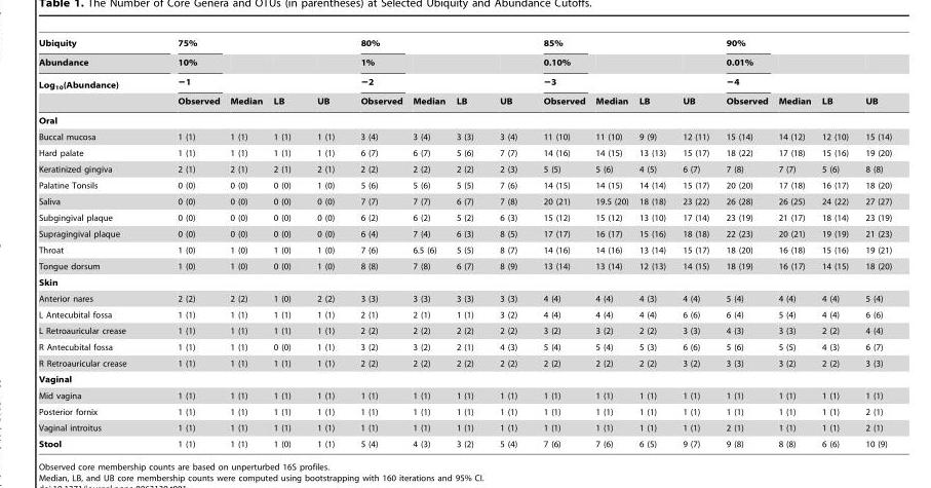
<table><thead><tr><td rowspan="4">Ubiquity Abundance Log<sub>10</sub>(Abundance)</td><td rowspan="4">75% 10% −1 Observed</td><td rowspan="4">Median</td><td rowspan="4">LB</td><td rowspan="4">UB</td><td rowspan="4">80% 1% −2 Observed</td><td rowspan="4">Median</td><td rowspan="4">LB</td><td rowspan="4">UB</td><td rowspan="4">85% 0.10% −3 Observed</td><td rowspan="4">Median</td><td rowspan="4">LB</td><td rowspan="4">UB</td><td rowspan="4">90% 0.01% −4 Observed</td><td rowspan="4">Median</td><td rowspan="4">LB</td><td rowspan="4">UB</td></tr><tr></tr><tr></tr><tr></tr></thead><tbody><tr><td colspan="17">Oral</td></tr><tr><td>Buccal mucosa</td><td>1 (1)</td><td>1 (1)</td><td>1 (1)</td><td>1 (1)</td><td>3 (4)</td><td>3 (4)</td><td>3 (3)</td><td>3 (4)</td><td>11 (10)</td><td>11 (10)</td><td>9 (9)</td><td>12 (11)</td><td>15 (14)</td><td>14 (12)</td><td>12 (10)</td><td>15 (14)</td></tr><tr><td>Hard palate</td><td>1 (1)</td><td>1 (1)</td><td>1 (1)</td><td>1 (1)</td><td>6 (7)</td><td>6 (7)</td><td>5 (6)</td><td>7 (7)</td><td>14 (16)</td><td>14 (15)</td><td>13 (13)</td><td>15 (17)</td><td>18 (22)</td><td>17 (18)</td><td>15 (16)</td><td>19 (20)</td></tr><tr><td>Keratinized gingiva</td><td>2 (1)</td><td>2 (1)</td><td>2 (1)</td><td>2 (1)</td><td>2 (2)</td><td>2 (2)</td><td>2 (2)</td><td>2 (3)</td><td>5 (5)</td><td>5 (6)</td><td>4 (5)</td><td>6 (7)</td><td>7 (8)</td><td>7 (7)</td><td>5 (6)</td><td>8 (8)</td></tr><tr><td>Palatine Tonsils</td><td>0 (0)</td><td>0 (0)</td><td>0 (0)</td><td>1 (0)</td><td>5 (6)</td><td>5 (6)</td><td>5 (5)</td><td>7 (6)</td><td>14 (15)</td><td>14 (15)</td><td>14 (14)</td><td>15 (17)</td><td>20 (20)</td><td>17 (18)</td><td>16 (17)</td><td>18 (20)</td></tr><tr><td>Saliva</td><td>0 (0)</td><td>0 (0)</td><td>0 (0)</td><td>0 (0)</td><td>7 (7)</td><td>7 (7)</td><td>6 (7)</td><td>7 (8)</td><td>20 (21)</td><td>19.5 (20)</td><td>18 (18)</td><td>23 (22)</td><td>26 (28)</td><td>26 (25)</td><td>24 (22)</td><td>27 (27)</td></tr><tr><td>Subgingival plaque</td><td>0 (0)</td><td>0 (0)</td><td>0 (0)</td><td>0 (0)</td><td>6 (2)</td><td>6 (2)</td><td>5 (2)</td><td>6 (3)</td><td>15 (12)</td><td>15 (12)</td><td>13 (10)</td><td>17 (14)</td><td>23 (19)</td><td>21 (17)</td><td>18 (14)</td><td>23 (19)</td></tr><tr><td>Supragingival plaque</td><td>0 (0)</td><td>0 (0)</td><td>0 (0)</td><td>0 (0)</td><td>6 (4)</td><td>7 (4)</td><td>6 (3)</td><td>8 (5)</td><td>17 (17)</td><td>16 (17)</td><td>15 (16)</td><td>18 (18)</td><td>22 (23)</td><td>20 (21)</td><td>19 (19)</td><td>21 (23)</td></tr><tr><td>Throat</td><td>1 (0)</td><td>1 (0)</td><td>1 (0)</td><td>1 (0)</td><td>7 (6)</td><td>6.5 (6)</td><td>5 (5)</td><td>8 (7)</td><td>14 (16)</td><td>14 (16)</td><td>13 (14)</td><td>15 (17)</td><td>18 (20)</td><td>16 (18)</td><td>15 (16)</td><td>19 (21)</td></tr><tr><td>Tongue dorsum</td><td>1 (0)</td><td>1 (0)</td><td>0 (0)</td><td>1 (0)</td><td>8 (8)</td><td>7 (8)</td><td>6 (7)</td><td>8 (9)</td><td>13 (14)</td><td>13 (14)</td><td>12 (13)</td><td>14 (15)</td><td>18 (19)</td><td>16 (17)</td><td>14 (15)</td><td>18 (20)</td></tr><tr><td colspan="17">Skin</td></tr><tr><td>Anterior nares</td><td>2 (2)</td><td>2 (2)</td><td>1 (0)</td><td>2 (2)</td><td>3 (3)</td><td>3 (3)</td><td>3 (3)</td><td>3 (3)</td><td>4 (4)</td><td>4 (4)</td><td>4 (3)</td><td>4 (4)</td><td>5 (4)</td><td>4 (4)</td><td>4 (4)</td><td>5 (4)</td></tr><tr><td>L Antecubital fossa</td><td>1 (1)</td><td>1 (1)</td><td>1 (1)</td><td>1 (1)</td><td>2 (1)</td><td>2 (1)</td><td>1 (1)</td><td>3 (2)</td><td>4 (4)</td><td>4 (4)</td><td>4 (4)</td><td>6 (6)</td><td>6 (4)</td><td>5 (4)</td><td>4 (4)</td><td>6 (6)</td></tr><tr><td>L Retroauricular crease</td><td>1 (1)</td><td>1 (1)</td><td>1 (1)</td><td>1 (1)</td><td>2 (2)</td><td>2 (2)</td><td>2 (2)</td><td>2 (2)</td><td>3 (2)</td><td>3 (2)</td><td>2 (2)</td><td>3 (3)</td><td>4 (3)</td><td>3 (3)</td><td>2 (2)</td><td>4 (4)</td></tr><tr><td>R Antecubital fossa</td><td>1 (1)</td><td>1 (1)</td><td>0 (0)</td><td>1 (1)</td><td>3 (2)</td><td>3 (2)</td><td>2 (1)</td><td>4 (3)</td><td>5 (4)</td><td>5 (4)</td><td>5 (3)</td><td>6 (6)</td><td>5 (6)</td><td>5 (5)</td><td>4 (3)</td><td>6 (7)</td></tr><tr><td>R Retroauricular crease</td><td>1 (1)</td><td>1 (1)</td><td>1 (1)</td><td>1 (1)</td><td>2 (2)</td><td>2 (2)</td><td>2 (2)</td><td>2 (2)</td><td>2 (2)</td><td>2 (2)</td><td>2 (2)</td><td>3 (2)</td><td>3 (3)</td><td>3 (2)</td><td>2 (2)</td><td>3 (3)</td></tr><tr><td colspan="17">Vaginal</td></tr><tr><td>Mid vagina</td><td>1 (1)</td><td>1 (1)</td><td>1 (1)</td><td>1 (1)</td><td>1 (1)</td><td>1 (1)</td><td>1 (1)</td><td>1 (1)</td><td>1 (1)</td><td>1 (1)</td><td>1 (1)</td><td>1 (1)</td><td>1 (1)</td><td>1 (1)</td><td>1 (1)</td><td>1 (1)</td></tr><tr><td>Posterior fornix</td><td>1 (1)</td><td>1 (1)</td><td>1 (1)</td><td>1 (1)</td><td>1 (1)</td><td>1 (1)</td><td>1 (1)</td><td>1 (1)</td><td>1 (1)</td><td>1 (1)</td><td>1 (1)</td><td>1 (1)</td><td>1 (1)</td><td>1 (1)</td><td>1 (1)</td><td>2 (1)</td></tr><tr><td>Vaginal introitus</td><td>1 (1)</td><td>1 (1)</td><td>1 (1)</td><td>1 (1)</td><td>1 (1)</td><td>1 (1)</td><td>1 (1)</td><td>1 (1)</td><td>1 (1)</td><td>1 (1)</td><td>1 (1)</td><td>1 (1)</td><td>2 (1)</td><td>1 (1)</td><td>1 (1)</td><td>2 (1)</td></tr><tr><td>Stool</td><td>1 (1)</td><td>1 (1)</td><td>1 (0)</td><td>1 (1)</td><td>5 (4)</td><td>4 (3)</td><td>3 (2)</td><td>5 (4)</td><td>7 (6)</td><td>7 (6)</td><td>6 (5)</td><td>9 (7)</td><td>9 (8)</td><td>8 (8)</td><td>6 (6)</td><td>10 (9)</td></tr></tbody></table>